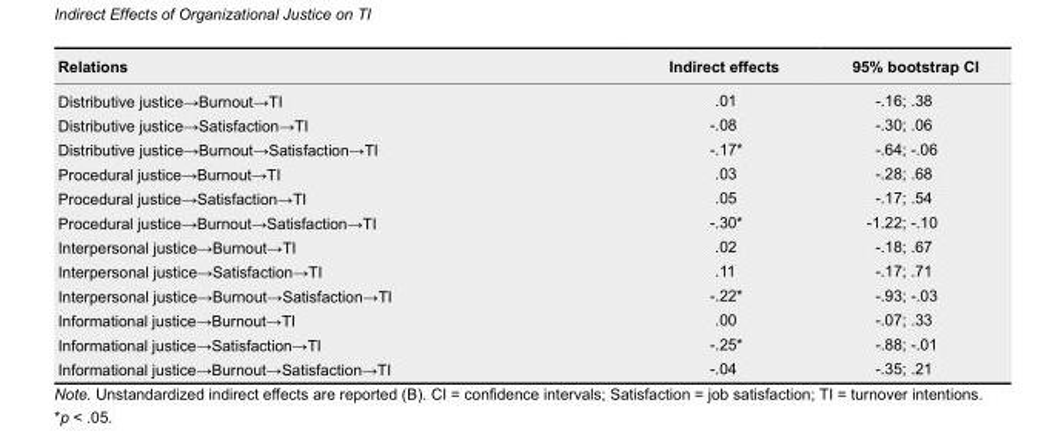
<table><thead><tr><td>Relations</td><td>Indirect effects</td><td>95% bootstrap CI</td></tr></thead><tbody><tr><td>Distributive justice→Burnout→TI</td><td>.01</td><td>-.16; .38</td></tr><tr><td>Distributive justice→Satisfaction→TI</td><td>-.08</td><td>-.30; .06</td></tr><tr><td>Distributive justice→Burnout→Satisfaction→TI</td><td>-.17*</td><td>-.64; -.06</td></tr><tr><td>Procedural justice→Burnout→TI</td><td>.03</td><td>-.28; .68</td></tr><tr><td>Procedural justice→Satisfaction→TI</td><td>.05</td><td>-.17; .54</td></tr><tr><td>Procedural justice→Burnout→Satisfaction→TI</td><td>-.30*</td><td>-1.22; -.10</td></tr><tr><td>Interpersonal justice→Burnout→TI</td><td>.02</td><td>-.18; .67</td></tr><tr><td>Interpersonal justice→Satisfaction→TI</td><td>.11</td><td>-.17; .71</td></tr><tr><td>Interpersonal justice→Burnout→Satisfaction→TI</td><td>-.22*</td><td>-.93; -.03</td></tr><tr><td>Informational justice→Burnout→TI</td><td>.00</td><td>-.07; .33</td></tr><tr><td>Informational justice→Satisfaction→TI</td><td>-.25*</td><td>-.88; -.01</td></tr><tr><td>Informational justice→Burnout→Satisfaction→TI</td><td>-.04</td><td>-.35; .21</td></tr></tbody></table>